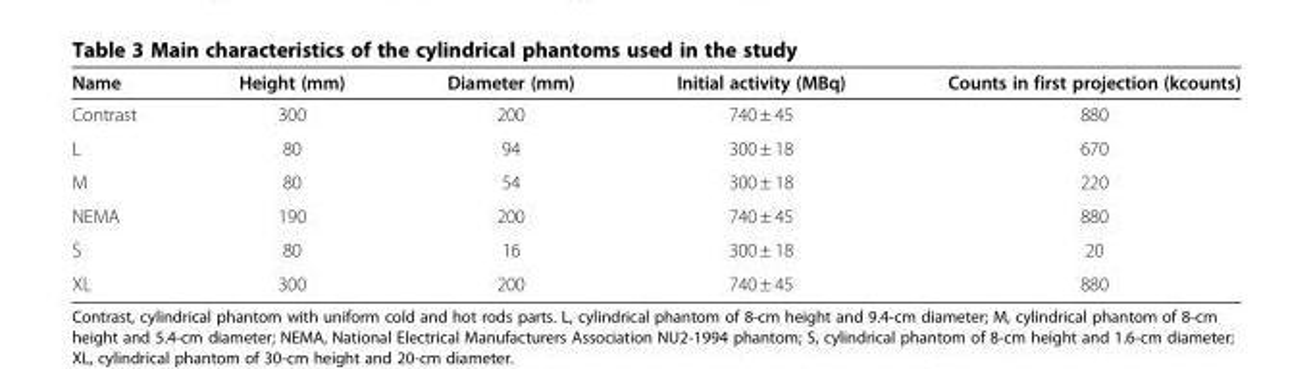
<table><thead><tr><td>Name</td><td>Height (mm)</td><td>Diameter (mm)</td><td>Initial activity (MBq)</td><td>Counts in first projection (kcounts)</td></tr></thead><tbody><tr><td>Contrast</td><td>300</td><td>200</td><td>740 ± 45</td><td>880</td></tr><tr><td>L</td><td>80</td><td>94</td><td>300 ± 18</td><td>670</td></tr><tr><td>M</td><td>80</td><td>54</td><td>300 ± 18</td><td>220</td></tr><tr><td>NEMA</td><td>190</td><td>200</td><td>740 ± 45</td><td>880</td></tr><tr><td>S</td><td>80</td><td>16</td><td>300 ± 18</td><td>20</td></tr><tr><td>XL</td><td>300</td><td>200</td><td>740 ± 45</td><td>880</td></tr></tbody></table>